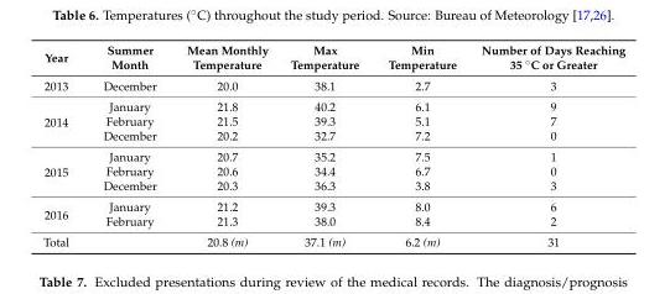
<table><thead><tr><td>Year</td><td>Summer Month</td><td>Mean Monthly Temperature</td><td>Max Temperature</td><td>Min Temperature</td><td>Number of Days Reaching 35 ˝C or Greater</td></tr></thead><tbody><tr><td>2013</td><td>December</td><td>20.0</td><td>38.1</td><td>2.7</td><td>3</td></tr><tr><td rowspan="3">2014</td><td>January</td><td>21.8</td><td>40.2</td><td>6.1</td><td>9</td></tr><tr><td>February</td><td>21.5</td><td>39.3</td><td>5.1</td><td>7</td></tr><tr><td>December</td><td>20.2</td><td>32.7</td><td>7.2</td><td>0</td></tr><tr><td rowspan="3">2015</td><td>January</td><td>20.7</td><td>35.2</td><td>7.5</td><td>1</td></tr><tr><td>February</td><td>20.6</td><td>34.4</td><td>6.7</td><td>0</td></tr><tr><td>December</td><td>20.3</td><td>36.3</td><td>3.8</td><td>3</td></tr><tr><td rowspan="2">2016</td><td>January</td><td>21.2</td><td>39.3</td><td>8.0</td><td>6</td></tr><tr><td>February</td><td>21.3</td><td>38.0</td><td>8.4</td><td>2</td></tr><tr><td>Total</td><td></td><td>20.8 (m)</td><td>37.1 (m)</td><td>6.2 (m)</td><td>31</td></tr></tbody></table>